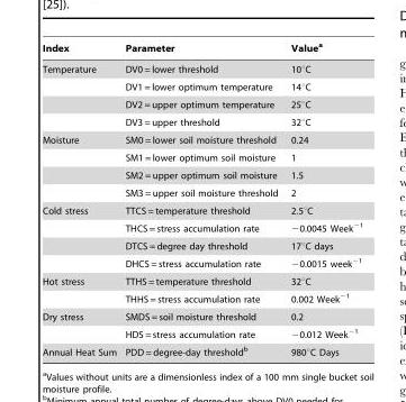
<table><thead><tr><td>Index</td><td>Parameter</td><td>Value<sup>a</sup></td></tr></thead><tbody><tr><td rowspan="4">Temperature</td><td>DV0 = lower threshold</td><td>10°C</td></tr><tr><td>DV1 = lower optimum temperature</td><td>14°C</td></tr><tr><td>DV2 = upper optimum temperature</td><td>25°C</td></tr><tr><td>DV3 = upper threshold</td><td>32°C</td></tr><tr><td rowspan="4">Moisture</td><td>SM0 = lower soil moisture threshold</td><td>0.24</td></tr><tr><td>SM1 = lower optimum soil moisture</td><td>1</td></tr><tr><td>SM2 = upper optimum soil moisture</td><td>1.5</td></tr><tr><td>SM3 = upper soil moisture threshold</td><td>2</td></tr><tr><td rowspan="4">Cold stress</td><td>TTCS = temperature threshold</td><td>2.5°C</td></tr><tr><td>THCS = stress accumulation rate</td><td>−0.0045 Week<sup>−1</sup></td></tr><tr><td>DTCS = degree day threshold</td><td>17°C days</td></tr><tr><td>DHCS = stress accumulation rate</td><td>−0.0015 week<sup>−1</sup></td></tr><tr><td rowspan="2">Hot stress</td><td>TTHS = temperature threshold</td><td>32°C</td></tr><tr><td>THHS = stress accumulation rate</td><td>0.002 Week<sup>−1</sup></td></tr><tr><td rowspan="2">Dry stress</td><td>SMDS = soil moisture threshold</td><td>0.2</td></tr><tr><td>HDS = stress accumulation rate</td><td>−0.012 Week<sup>−1</sup></td></tr><tr><td>Annual Heat Sum</td><td>PDD = degree-day threshold<sup>b</sup></td><td>980°C Days</td></tr></tbody></table>